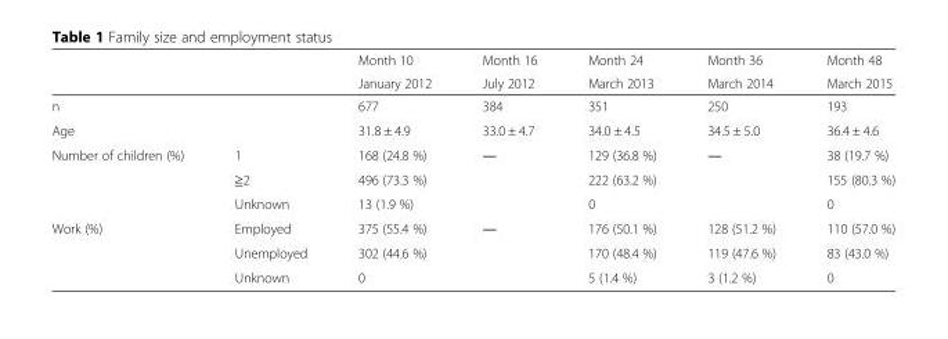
<table><thead><tr><td rowspan="2"></td><td rowspan="2"></td><td rowspan="2">Month 10 January 2012</td><td rowspan="2">Month 16 July 2012</td><td rowspan="2">Month 24 March 2013</td><td rowspan="2">Month 36 March 2014</td><td rowspan="2">Month 48 March 2015</td></tr><tr></tr></thead><tbody><tr><td colspan="2">n</td><td>677</td><td>384</td><td>351</td><td>250</td><td>193</td></tr><tr><td colspan="2">Age</td><td>31.8 ± 4.9</td><td>33.0 ± 4.7</td><td>34.0 ± 4.5</td><td>34.5 ± 5.0</td><td>36.4 ± 4.6</td></tr><tr><td rowspan="3">Number of children (%)</td><td>1</td><td>168 (24.8 %)</td><td rowspan="3">―</td><td>129 (36.8 %)</td><td rowspan="3">―</td><td>38 (19.7 %)</td></tr><tr><td>≧2</td><td>496 (73.3 %)</td><td>222 (63.2 %)</td><td>155 (80.3 %)</td></tr><tr><td>Unknown</td><td>13 (1.9 %)</td><td>0</td><td>0</td></tr><tr><td rowspan="3">Work (%)</td><td>Employed</td><td>375 (55.4 %)</td><td rowspan="3">―</td><td>176 (50.1 %)</td><td>128 (51.2 %)</td><td>110 (57.0 %)</td></tr><tr><td>Unemployed</td><td>302 (44.6 %)</td><td>170 (48.4 %)</td><td>119 (47.6 %)</td><td>83 (43.0 %)</td></tr><tr><td>Unknown</td><td>0</td><td>5 (1.4 %)</td><td>3 (1.2 %)</td><td>0</td></tr></tbody></table>